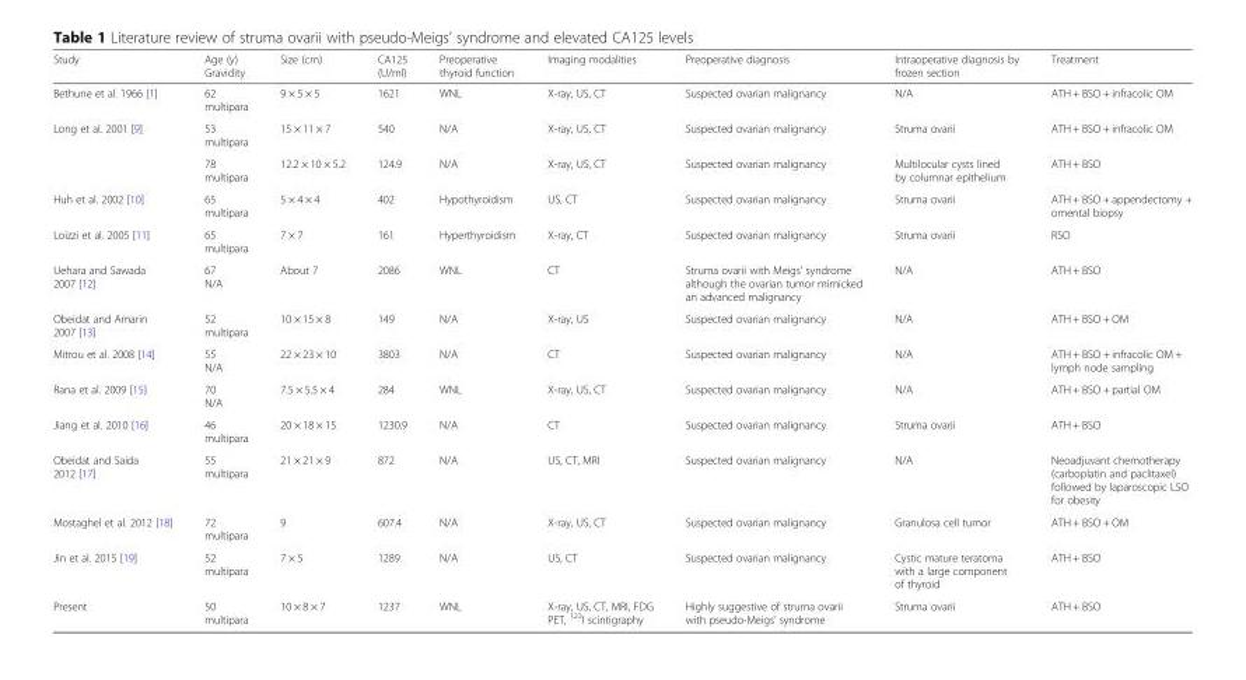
<table><thead><tr><td>Study</td><td>Age (y) Gravidity</td><td>Size (cm)</td><td>CA125 (U/ml)</td><td>Preoperative thyroid function</td><td>Imaging modalities</td><td>Preoperative diagnosis</td><td>Intraoperative diagnosis by frozen section</td><td>Treatment</td></tr></thead><tbody><tr><td>Bethune et al. 1966 [1]</td><td>62 multipara</td><td>9 × 5 × 5</td><td>1621</td><td>WNL</td><td>X-ray, US, CT</td><td>Suspected ovarian malignancy</td><td>N/A</td><td>ATH + BSO + infracolic OM</td></tr><tr><td rowspan="2">Long et al. 2001 [9]</td><td>53 multipara</td><td>15 × 11 × 7</td><td>540</td><td>N/A</td><td>X-ray, US, CT</td><td>Suspected ovarian malignancy</td><td>Struma ovarii</td><td>ATH + BSO + infracolic OM</td></tr><tr><td>78 multipara</td><td>12.2 × 10 × 5.2</td><td>124.9</td><td>N/A</td><td>X-ray, US, CT</td><td>Suspected ovarian malignancy</td><td>Multilocular cysts lined by columnar epithelium</td><td>ATH + BSO</td></tr><tr><td>Huh et al. 2002 [10]</td><td>65 multipara</td><td>5 × 4 × 4</td><td>402</td><td>Hypothyroidism</td><td>US, CT</td><td>Suspected ovarian malignancy</td><td>Struma ovarii</td><td>ATH + BSO + appendectomy + omental biopsy</td></tr><tr><td>Loizzi et al. 2005 [11]</td><td>65 multipara</td><td>7 × 7</td><td>161</td><td>Hyperthyroidism</td><td>X-ray, CT</td><td>Suspected ovarian malignancy</td><td>Struma ovarii</td><td>RSO</td></tr><tr><td>Uehara and Sawada 2007 [12]</td><td>67 N/A</td><td>About 7</td><td>2086</td><td>WNL</td><td>CT</td><td>Struma ovarii with Meigs’ syndrome although the ovarian tumor mimicked an advanced malignancy</td><td>N/A</td><td>ATH + BSO</td></tr><tr><td>Obeidat and Amarin 2007 [13]</td><td>52 multipara</td><td>10 × 15 × 8</td><td>149</td><td>N/A</td><td>X-ray, US</td><td>Suspected ovarian malignancy</td><td>N/A</td><td>ATH + BSO + OM</td></tr><tr><td>Mitrou et al. 2008 [14]</td><td>55 N/A</td><td>22 × 23 × 10</td><td>3803</td><td>N/A</td><td>CT</td><td>Suspected ovarian malignancy</td><td>N/A</td><td>ATH + BSO + infracolic OM + lymph node sampling</td></tr><tr><td>Rana et al. 2009 [15]</td><td>70 N/A</td><td>7.5 × 5.5 × 4</td><td>284</td><td>WNL</td><td>X-ray, US, CT</td><td>Suspected ovarian malignancy</td><td>N/A</td><td>ATH + BSO + partial OM</td></tr><tr><td>Jiang et al. 2010 [16]</td><td>46 multipara</td><td>20 × 18 × 15</td><td>1230.9</td><td>N/A</td><td>CT</td><td>Suspected ovarian malignancy</td><td>Struma ovarii</td><td>ATH + BSO</td></tr><tr><td>Obeidat and Saida 2012 [17]</td><td>55 multipara</td><td>21 × 21 × 9</td><td>872</td><td>N/A</td><td>US, CT, MRI</td><td>Suspected ovarian malignancy</td><td>N/A</td><td>Neoadjuvant chemotherapy (carboplatin and paclitaxel) followed by laparoscopic LSO for obesity</td></tr><tr><td>Mostaghel et al. 2012 [18]</td><td>72 multipara</td><td>9</td><td>607.4</td><td>N/A</td><td>X-ray, US, CT</td><td>Suspected ovarian malignancy</td><td>Granulosa cell tumor</td><td>ATH + BSO + OM</td></tr><tr><td>Jin et al. 2015 [19]</td><td>52 multipara</td><td>7 × 5</td><td>1289</td><td>N/A</td><td>US, CT</td><td>Suspected ovarian malignancy</td><td>Cystic mature teratoma with a large component of thyroid</td><td>ATH + BSO</td></tr><tr><td>Present</td><td>50 multipara</td><td>10 × 8 × 7</td><td>1237</td><td>WNL</td><td>X-ray, US, CT, MRI, FDG PET, <sup>123</sup>I scintigraphy</td><td>Highly suggestive of struma ovarii with pseudo-Meigs’ syndrome</td><td>Struma ovarii</td><td>ATH + BSO</td></tr></tbody></table>